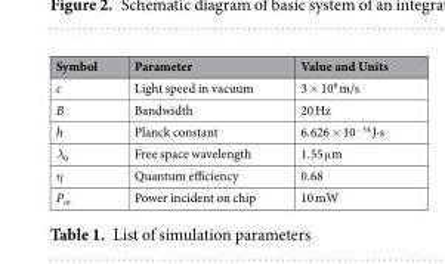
<table><thead><tr><td>Symbol</td><td>Parameter</td><td>Value and Units</td></tr></thead><tbody><tr><td>c</td><td>Light speed in vacuum</td><td>3 × 10<sup>8</sup> m/s</td></tr><tr><td>B</td><td>Bandwidth</td><td>20 Hz</td></tr><tr><td>h</td><td>Planck constant</td><td>6.626 × 10<sup>−34</sup> J·s</td></tr><tr><td>λ<sub>0</sub></td><td>Free space wavelength</td><td>1.55 μm</td></tr><tr><td>η</td><td>Quantum efficiency</td><td>0.68</td></tr><tr><td>P<sub>in</sub></td><td>Power incident on chip</td><td>10 mW</td></tr></tbody></table>